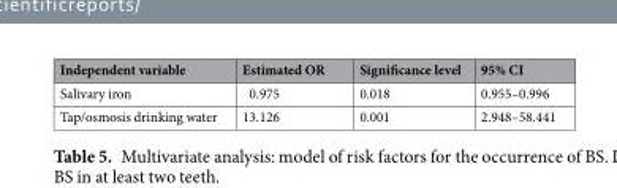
<table><thead><tr><td>Independent variable</td><td>Estimated OR</td><td>Significance level</td><td>95% CI</td></tr></thead><tbody><tr><td>Salivary iron</td><td>0.975</td><td>0.018</td><td>0.955–0.996</td></tr><tr><td>Tap/osmosis drinking water</td><td>13.126</td><td>0.001</td><td>2.948–58.441</td></tr></tbody></table>